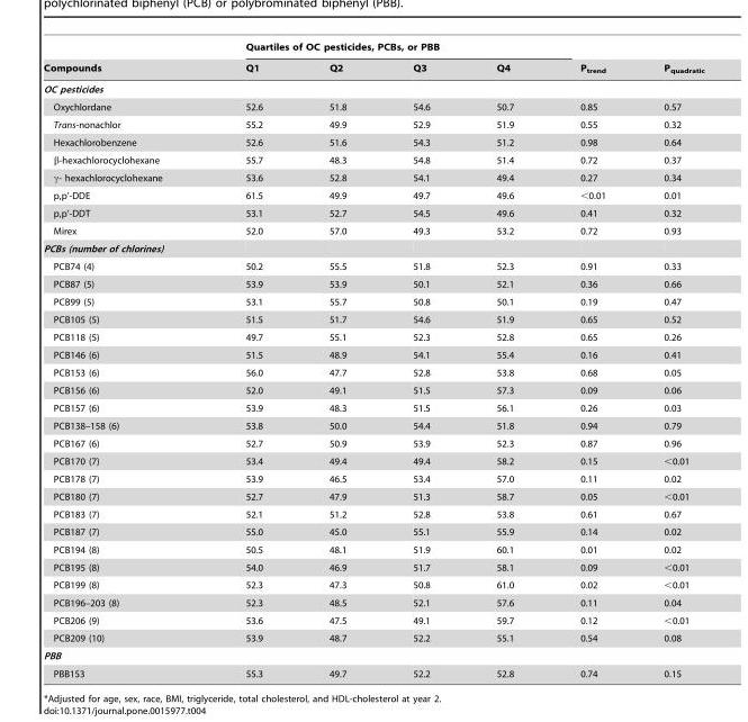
<table><thead><tr><td rowspan="2">Compounds</td><td colspan="4">Quartiles of OC pesticides, PCBs, or PBB</td><td rowspan="2">P<sub>trend</sub></td><td rowspan="2">P<sub>quadratic</sub></td></tr><tr><td>Q1</td><td>Q2</td><td>Q3</td><td>Q4</td></tr></thead><tbody><tr><td colspan="7">OC pesticides</td></tr><tr><td>Oxychlordane</td><td>52.6</td><td>51.8</td><td>54.6</td><td>50.7</td><td>0.85</td><td>0.57</td></tr><tr><td>Trans-nonachlor</td><td>55.2</td><td>49.9</td><td>52.9</td><td>51.9</td><td>0.55</td><td>0.32</td></tr><tr><td>Hexachlorobenzene</td><td>52.6</td><td>51.6</td><td>54.3</td><td>51.2</td><td>0.98</td><td>0.64</td></tr><tr><td>β-hexachlorocyclohexane</td><td>55.7</td><td>48.3</td><td>54.8</td><td>51.4</td><td>0.72</td><td>0.37</td></tr><tr><td>γ- hexachlorocyclohexane</td><td>53.6</td><td>52.8</td><td>54.1</td><td>49.4</td><td>0.27</td><td>0.34</td></tr><tr><td>p,p’-DDE</td><td>61.5</td><td>49.9</td><td>49.7</td><td>49.6</td><td>&lt;0.01</td><td>0.01</td></tr><tr><td>p,p’-DDT</td><td>53.1</td><td>52.7</td><td>54.5</td><td>49.6</td><td>0.41</td><td>0.32</td></tr><tr><td>Mirex</td><td>52.0</td><td>57.0</td><td>49.3</td><td>53.2</td><td>0.72</td><td>0.93</td></tr><tr><td colspan="7">PCBs (number of chlorines)</td></tr><tr><td>PCB74 (4)</td><td>50.2</td><td>55.5</td><td>51.8</td><td>52.3</td><td>0.91</td><td>0.33</td></tr><tr><td>PCB87 (5)</td><td>53.9</td><td>53.9</td><td>50.1</td><td>52.1</td><td>0.36</td><td>0.66</td></tr><tr><td>PCB99 (5)</td><td>53.1</td><td>55.7</td><td>50.8</td><td>50.1</td><td>0.19</td><td>0.47</td></tr><tr><td>PCB105 (5)</td><td>51.5</td><td>51.7</td><td>54.6</td><td>51.9</td><td>0.65</td><td>0.52</td></tr><tr><td>PCB118 (5)</td><td>49.7</td><td>55.1</td><td>52.3</td><td>52.8</td><td>0.65</td><td>0.26</td></tr><tr><td>PCB146 (6)</td><td>51.5</td><td>48.9</td><td>54.1</td><td>55.4</td><td>0.16</td><td>0.41</td></tr><tr><td>PCB153 (6)</td><td>56.0</td><td>47.7</td><td>52.8</td><td>53.8</td><td>0.68</td><td>0.05</td></tr><tr><td>PCB156 (6)</td><td>52.0</td><td>49.1</td><td>51.5</td><td>57.3</td><td>0.09</td><td>0.06</td></tr><tr><td>PCB157 (6)</td><td>53.9</td><td>48.3</td><td>51.5</td><td>56.1</td><td>0.26</td><td>0.03</td></tr><tr><td>PCB138–158 (6)</td><td>53.8</td><td>50.0</td><td>54.4</td><td>51.8</td><td>0.94</td><td>0.79</td></tr><tr><td>PCB167 (6)</td><td>52.7</td><td>50.9</td><td>53.9</td><td>52.3</td><td>0.87</td><td>0.96</td></tr><tr><td>PCB170 (7)</td><td>53.4</td><td>49.4</td><td>49.4</td><td>58.2</td><td>0.15</td><td>&lt;0.01</td></tr><tr><td>PCB178 (7)</td><td>53.9</td><td>46.5</td><td>53.4</td><td>57.0</td><td>0.11</td><td>0.02</td></tr><tr><td>PCB180 (7)</td><td>52.7</td><td>47.9</td><td>51.3</td><td>58.7</td><td>0.05</td><td>&lt;0.01</td></tr><tr><td>PCB183 (7)</td><td>52.1</td><td>51.2</td><td>52.8</td><td>53.8</td><td>0.61</td><td>0.67</td></tr><tr><td>PCB187 (7)</td><td>55.0</td><td>45.0</td><td>55.1</td><td>55.9</td><td>0.14</td><td>0.02</td></tr><tr><td>PCB194 (8)</td><td>50.5</td><td>48.1</td><td>51.9</td><td>60.1</td><td>0.01</td><td>0.02</td></tr><tr><td>PCB195 (8)</td><td>54.0</td><td>46.9</td><td>51.7</td><td>58.1</td><td>0.09</td><td>&lt;0.01</td></tr><tr><td>PCB199 (8)</td><td>52.3</td><td>47.3</td><td>50.8</td><td>61.0</td><td>0.02</td><td>&lt;0.01</td></tr><tr><td>PCB196–203 (8)</td><td>52.3</td><td>48.5</td><td>52.1</td><td>57.6</td><td>0.11</td><td>0.04</td></tr><tr><td>PCB206 (9)</td><td>53.6</td><td>47.5</td><td>49.1</td><td>59.7</td><td>0.12</td><td>&lt;0.01</td></tr><tr><td>PCB209 (10)</td><td>53.9</td><td>48.7</td><td>52.2</td><td>55.1</td><td>0.54</td><td>0.08</td></tr><tr><td colspan="7">PBB</td></tr><tr><td>PBB153</td><td>55.3</td><td>49.7</td><td>52.2</td><td>52.8</td><td>0.74</td><td>0.15</td></tr></tbody></table>